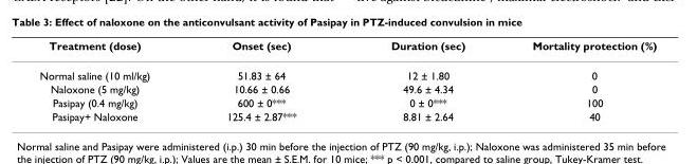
<table><thead><tr><td>Treatment (dose)</td><td>Onset (sec)</td><td>Duration (sec)</td><td>Mortality protection (%)</td></tr></thead><tbody><tr><td>Normal saline (10 ml/kg)</td><td>51.83 ± 64</td><td>12 ± 1.80</td><td>0</td></tr><tr><td>Naloxone (5 mg/kg)</td><td>10.66 ± 0.66</td><td>49.6 ± 4.34</td><td>0</td></tr><tr><td>Pasipay (0.4 mg/kg)</td><td>600 ± 0***</td><td>0 ± 0***</td><td>100</td></tr><tr><td>Pasipay+ Naloxone</td><td>125.4 ± 2.87***</td><td>8.81 ± 2.64</td><td>40</td></tr></tbody></table>